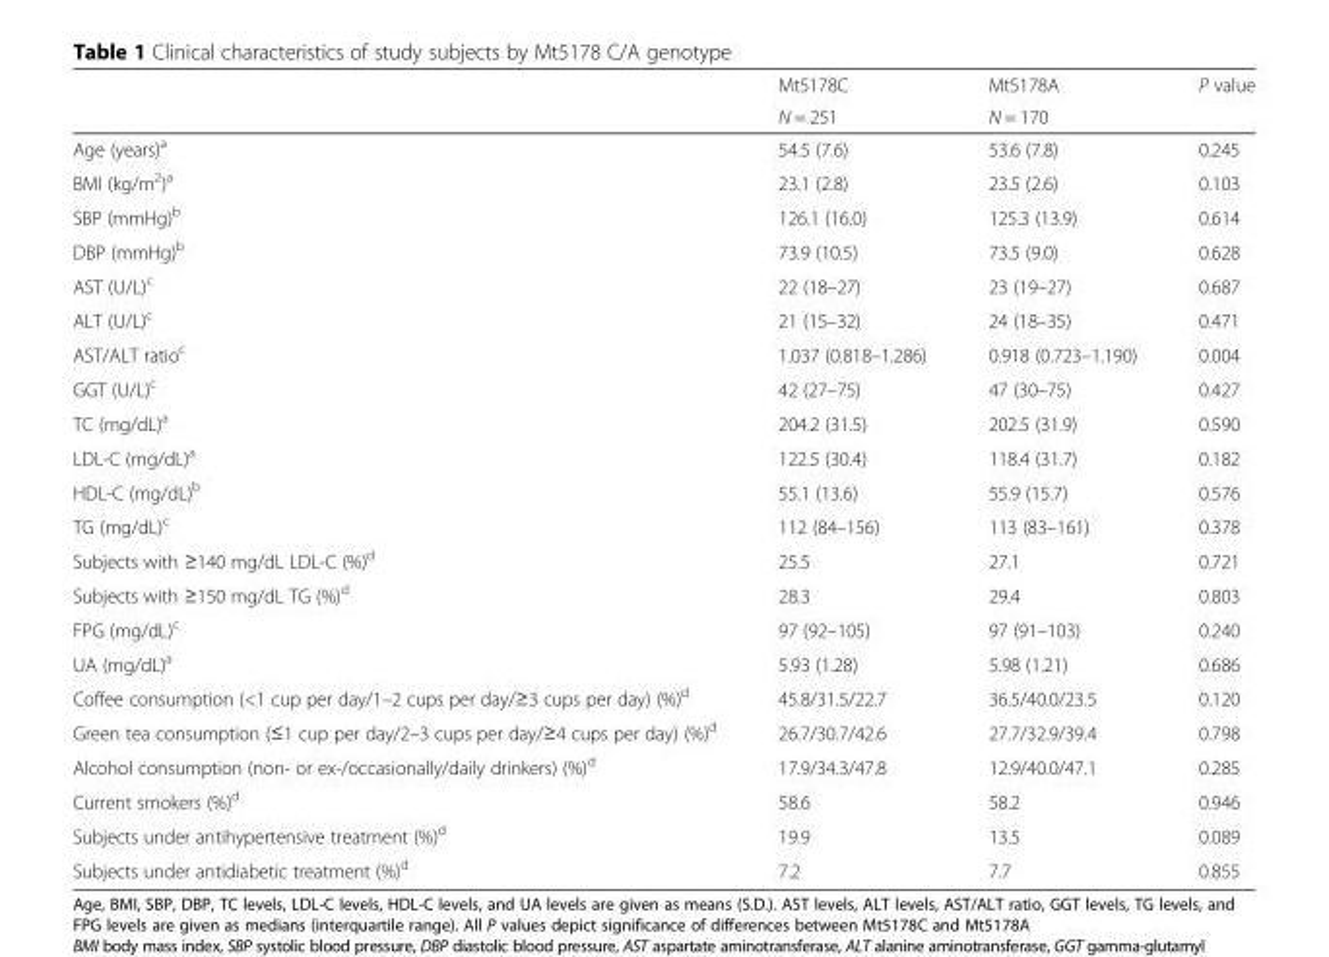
<table><thead><tr><td rowspan="2"></td><td rowspan="2">Mt5178C N = 251</td><td rowspan="2">Mt5178A N = 170</td><td rowspan="2">P value</td></tr><tr></tr></thead><tbody><tr><td>Age (years)<sup>a</sup></td><td>54.5 (7.6)</td><td>53.6 (7.8)</td><td>0.245</td></tr><tr><td>BMI (kg/m<sup>2</sup>)<sup>a</sup></td><td>23.1 (2.8)</td><td>23.5 (2.6)</td><td>0.103</td></tr><tr><td>SBP (mmHg)<sup>b</sup></td><td>126.1 (16.0)</td><td>125.3 (13.9)</td><td>0.614</td></tr><tr><td>DBP (mmHg)<sup>b</sup></td><td>73.9 (10.5)</td><td>73.5 (9.0)</td><td>0.628</td></tr><tr><td>AST (U/L)<sup>c</sup></td><td>22 (18–27)</td><td>23 (19–27)</td><td>0.687</td></tr><tr><td>ALT (U/L)<sup>c</sup></td><td>21 (15–32)</td><td>24 (18–35)</td><td>0.471</td></tr><tr><td>AST/ALT ratio<sup>c</sup></td><td>1.037 (0.818–1.286)</td><td>0.918 (0.723–1.190)</td><td>0.004</td></tr><tr><td>GGT (U/L)<sup>c</sup></td><td>42 (27–75)</td><td>47 (30–75)</td><td>0.427</td></tr><tr><td>TC (mg/dL)<sup>a</sup></td><td>204.2 (31.5)</td><td>202.5 (31.9)</td><td>0.590</td></tr><tr><td>LDL-C (mg/dL)<sup>a</sup></td><td>122.5 (30.4)</td><td>118.4 (31.7)</td><td>0.182</td></tr><tr><td>HDL-C (mg/dL)<sup>b</sup></td><td>55.1 (13.6)</td><td>55.9 (15.7)</td><td>0.576</td></tr><tr><td>TG (mg/dL)<sup>c</sup></td><td>112 (84–156)</td><td>113 (83–161)</td><td>0.378</td></tr><tr><td>Subjects with ≥140 mg/dL LDL-C (%)<sup>d</sup></td><td>25.5</td><td>27.1</td><td>0.721</td></tr><tr><td>Subjects with ≥150 mg/dL TG (%)<sup>d</sup></td><td>28.3</td><td>29.4</td><td>0.803</td></tr><tr><td>FPG (mg/dL)<sup>c</sup></td><td>97 (92–105)</td><td>97 (91–103)</td><td>0.240</td></tr><tr><td>UA (mg/dL)<sup>a</sup></td><td>5.93 (1.28)</td><td>5.98 (1.21)</td><td>0.686</td></tr><tr><td>Coffee consumption (&lt;1 cup per day/1–2 cups per day/≥3 cups per day) (%)<sup>d</sup></td><td>45.8/31.5/22.7</td><td>36.5/40.0/23.5</td><td>0.120</td></tr><tr><td>Green tea consumption (≤1 cup per day/2–3 cups per day/≥4 cups per day) (%)<sup>d</sup></td><td>26.7/30.7/42.6</td><td>27.7/32.9/39.4</td><td>0.798</td></tr><tr><td>Alcohol consumption (non- or ex-/occasionally/daily drinkers) (%)<sup>d</sup></td><td>17.9/34.3/47.8</td><td>12.9/40.0/47.1</td><td>0.285</td></tr><tr><td>Current smokers (%)<sup>d</sup></td><td>58.6</td><td>58.2</td><td>0.946</td></tr><tr><td>Subjects under antihypertensive treatment (%)<sup>d</sup></td><td>19.9</td><td>13.5</td><td>0.089</td></tr><tr><td>Subjects under antidiabetic treatment (%)<sup>d</sup></td><td>7.2</td><td>7.7</td><td>0.855</td></tr></tbody></table>